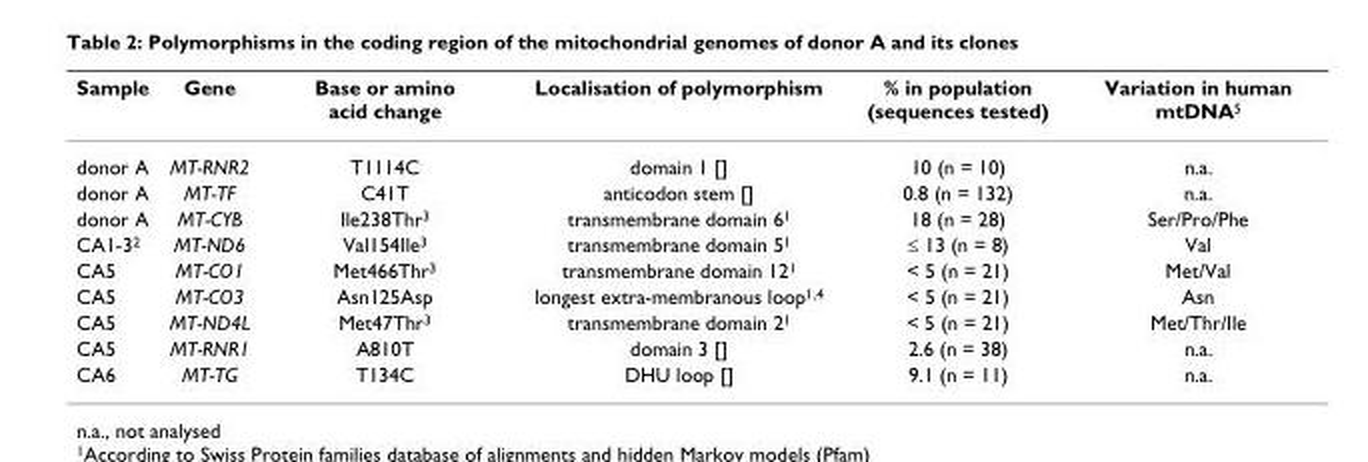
<table><thead><tr><td>Sample</td><td>Gene</td><td>Base or amino acid change</td><td>Localisation of polymorphism</td><td>% in population (sequences tested)</td><td>Variation in human mtDNA<sup>5</sup></td></tr></thead><tbody><tr><td>donor A</td><td>MT-RNR2</td><td>T1114C</td><td>domain 1 []</td><td>10 (n = 10)</td><td>n.a.</td></tr><tr><td>donor A</td><td>MT-TF</td><td>C41T</td><td>anticodon stem []</td><td>0.8 (n = 132)</td><td>n.a.</td></tr><tr><td>donor A</td><td>MT-CYB</td><td>Ile238Thr<sup>3</sup></td><td>transmembrane domain 6<sup>1</sup></td><td>18 (n = 28)</td><td>Ser/Pro/Phe</td></tr><tr><td>CA1-3<sup>2</sup></td><td>MT-ND6</td><td>Val154Ile<sup>3</sup></td><td>transmembrane domain 5<sup>1</sup></td><td>≤ 13 (n = 8)</td><td>Val</td></tr><tr><td>CA5</td><td>MT-CO1</td><td>Met466Thr<sup>3</sup></td><td>transmembrane domain 12<sup>1</sup></td><td>&lt; 5 (n = 21)</td><td>Met/Val</td></tr><tr><td>CA5</td><td>MT-CO3</td><td>Asn125Asp</td><td>longest extra-membranous loop<sup>1,4</sup></td><td>&lt; 5 (n = 21)</td><td>Asn</td></tr><tr><td>CA5</td><td>MT-ND4L</td><td>Met47Thr<sup>3</sup></td><td>transmembrane domain 2<sup>1</sup></td><td>&lt; 5 (n = 21)</td><td>Met/Thr/Ile</td></tr><tr><td>CA5</td><td>MT-RNR1</td><td>A810T</td><td>domain 3 []</td><td>2.6 (n = 38)</td><td>n.a.</td></tr><tr><td>CA6</td><td>MT-TG</td><td>T134C</td><td>DHU loop []</td><td>9.1 (n = 11)</td><td>n.a.</td></tr></tbody></table>